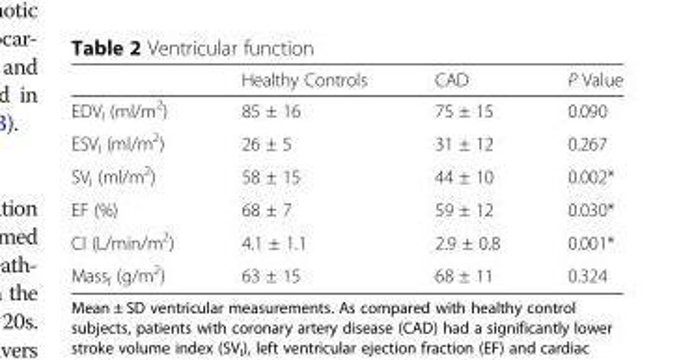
<table><thead><tr><td></td><td>Healthy Controls</td><td>CAD</td><td>P Value</td></tr></thead><tbody><tr><td>EDV<sub>I</sub> (ml/m<sup>2</sup>)</td><td>85 ± 16</td><td>75 ± 15</td><td>0.090</td></tr><tr><td>ESV<sub>I</sub> (ml/m<sup>2</sup>)</td><td>26 ± 5</td><td>31 ± 12</td><td>0.267</td></tr><tr><td>SV<sub>I</sub> (ml/m<sup>2</sup>)</td><td>58 ± 15</td><td>44 ± 10</td><td>0.002*</td></tr><tr><td>EF (%)</td><td>68 ± 7</td><td>59 ± 12</td><td>0.030*</td></tr><tr><td>CI (L/min/m<sup>2</sup>)</td><td>4.1 ± 1.1</td><td>2.9 ± 0.8</td><td>0.001*</td></tr><tr><td>Mass<sub>I</sub> (g/m<sup>2</sup>)</td><td>63 ± 15</td><td>68 ± 11</td><td>0.324</td></tr></tbody></table>